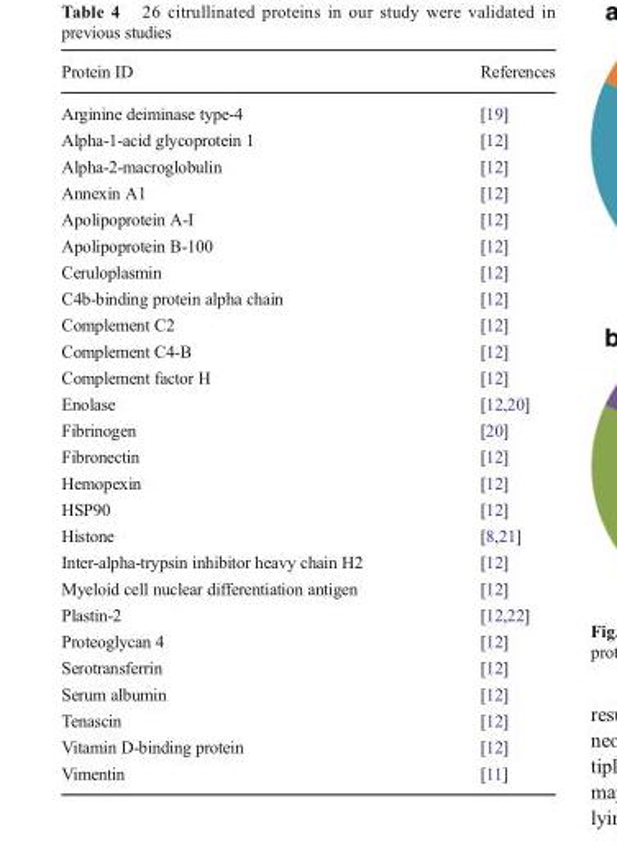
<table><thead><tr><td>Protein ID</td><td>References</td></tr></thead><tbody><tr><td>Arginine deiminase type-4</td><td>[19]</td></tr><tr><td>Alpha-1-acid glycoprotein 1</td><td>[12]</td></tr><tr><td>Alpha-2-macroglobulin</td><td>[12]</td></tr><tr><td>Annexin A1</td><td>[12]</td></tr><tr><td>Apolipoprotein A-I</td><td>[12]</td></tr><tr><td>Apolipoprotein B-100</td><td>[12]</td></tr><tr><td>Ceruloplasmin</td><td>[12]</td></tr><tr><td>C4b-binding protein alpha chain</td><td>[12]</td></tr><tr><td>Complement C2</td><td>[12]</td></tr><tr><td>Complement C4-B</td><td>[12]</td></tr><tr><td>Complement factor H</td><td>[12]</td></tr><tr><td>Enolase</td><td>[12,20]</td></tr><tr><td>Fibrinogen</td><td>[20]</td></tr><tr><td>Fibronectin</td><td>[12]</td></tr><tr><td>Hemopexin</td><td>[12]</td></tr><tr><td>HSP90</td><td>[12]</td></tr><tr><td>Histone</td><td>[8,21]</td></tr><tr><td>Inter-alpha-trypsin inhibitor heavy chain H2</td><td>[12]</td></tr><tr><td>Myeloid cell nuclear differentiation antigen</td><td>[12]</td></tr><tr><td>Plastin-2</td><td>[12,22]</td></tr><tr><td>Proteoglycan 4</td><td>[12]</td></tr><tr><td>Serotransferrin</td><td>[12]</td></tr><tr><td>Serum albumin</td><td>[12]</td></tr><tr><td>Tenascin</td><td>[12]</td></tr><tr><td>Vitamin D-binding protein</td><td>[12]</td></tr><tr><td>Vimentin</td><td>[11]</td></tr></tbody></table>